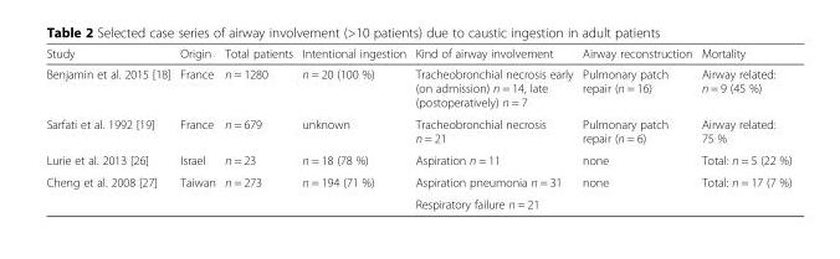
<table><thead><tr><td>Study</td><td>Origin</td><td>Total patients</td><td>Intentional ingestion</td><td>Kind of airway involvement</td><td>Airway reconstruction</td><td>Mortality</td></tr></thead><tbody><tr><td>Benjamin et al. 2015 [18]</td><td>France</td><td>n = 1280</td><td>n = 20 (100 %)</td><td>Tracheobronchial necrosis early (on admission) n = 14, late (postoperatively) n = 7</td><td>Pulmonary patch repair (n = 16)</td><td>Airway related: n = 9 (45 %)</td></tr><tr><td>Sarfati et al. 1992 [19]</td><td>France</td><td>n = 679</td><td>unknown</td><td>Tracheobronchial necrosis n = 21</td><td>Pulmonary patch repair (n = 6)</td><td>Airway related: 75 %</td></tr><tr><td>Lurie et al. 2013 [26]</td><td>Israel</td><td>n = 23</td><td>n = 18 (78 %)</td><td>Aspiration n = 11</td><td>none</td><td>Total: n = 5 (22 %)</td></tr><tr><td rowspan="2">Cheng et al. 2008 [27]</td><td rowspan="2">Taiwan</td><td rowspan="2">n = 273</td><td rowspan="2">n = 194 (71 %)</td><td>Aspiration pneumonia n = 31</td><td rowspan="2">none</td><td rowspan="2">Total: n = 17 (7 %)</td></tr><tr><td>Respiratory failure n = 21</td></tr></tbody></table>